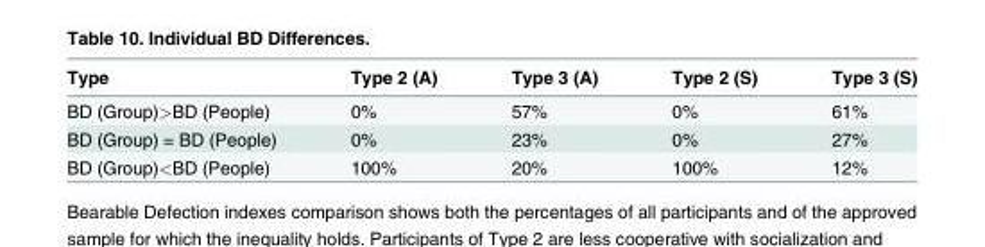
<table><thead><tr><td>Type</td><td>Type 2 (A)</td><td>Type 3 (A)</td><td>Type 2 (S)</td><td>Type 3 (S)</td></tr></thead><tbody><tr><td>BD (Group)&gt;BD (People)</td><td>0%</td><td>57%</td><td>0%</td><td>61%</td></tr><tr><td>BD (Group) = BD (People)</td><td>0%</td><td>23%</td><td>0%</td><td>27%</td></tr><tr><td>BD (Group)&lt;BD (People)</td><td>100%</td><td>20%</td><td>100%</td><td>12%</td></tr></tbody></table>